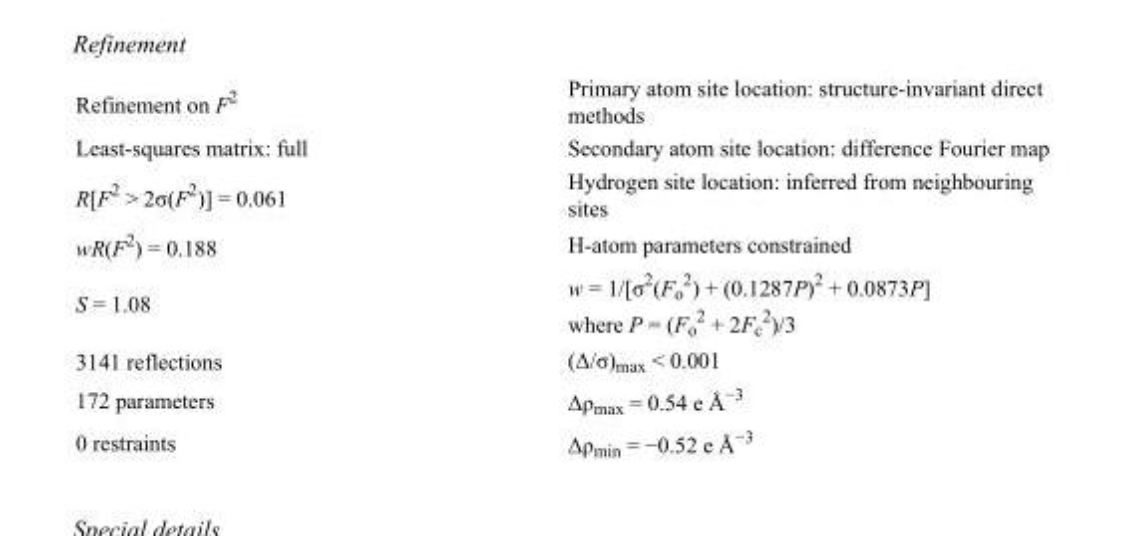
<table><tbody><tr><td>Refinement on F<sup>2</sup></td><td>Primary atom site location: structure-invariant direct methods</td></tr><tr><td>Least-squares matrix: full</td><td>Secondary atom site location: difference Fourier map</td></tr><tr><td>R[F<sup>2</sup> &gt; 2σ(F<sup>2</sup>)] = 0.061</td><td>Hydrogen site location: inferred from neighbouring sites</td></tr><tr><td>wR(F<sup>2</sup>) = 0.188</td><td>H-atom parameters constrained</td></tr><tr><td>S = 1.08</td><td>w = 1/[σ<sup>2</sup>(F<sub>o</sub> <sup>2</sup>) + (0.1287P)<sup>2</sup> + 0.0873P] where P = (F<sub>o</sub> <sup>2</sup> + 2F<sub>c</sub> <sup>2</sup>)/3</td></tr><tr><td>3141 reflections</td><td>(Δ/σ)<sub>max</sub> &lt; 0.001</td></tr><tr><td>172 parameters</td><td>Δρ<sub>max</sub> = 0.54 e Å<sup>−3</sup></td></tr><tr><td>0 restraints</td><td>Δρ<sub>min</sub> = −0.52 e Å<sup>−3</sup></td></tr></tbody></table>